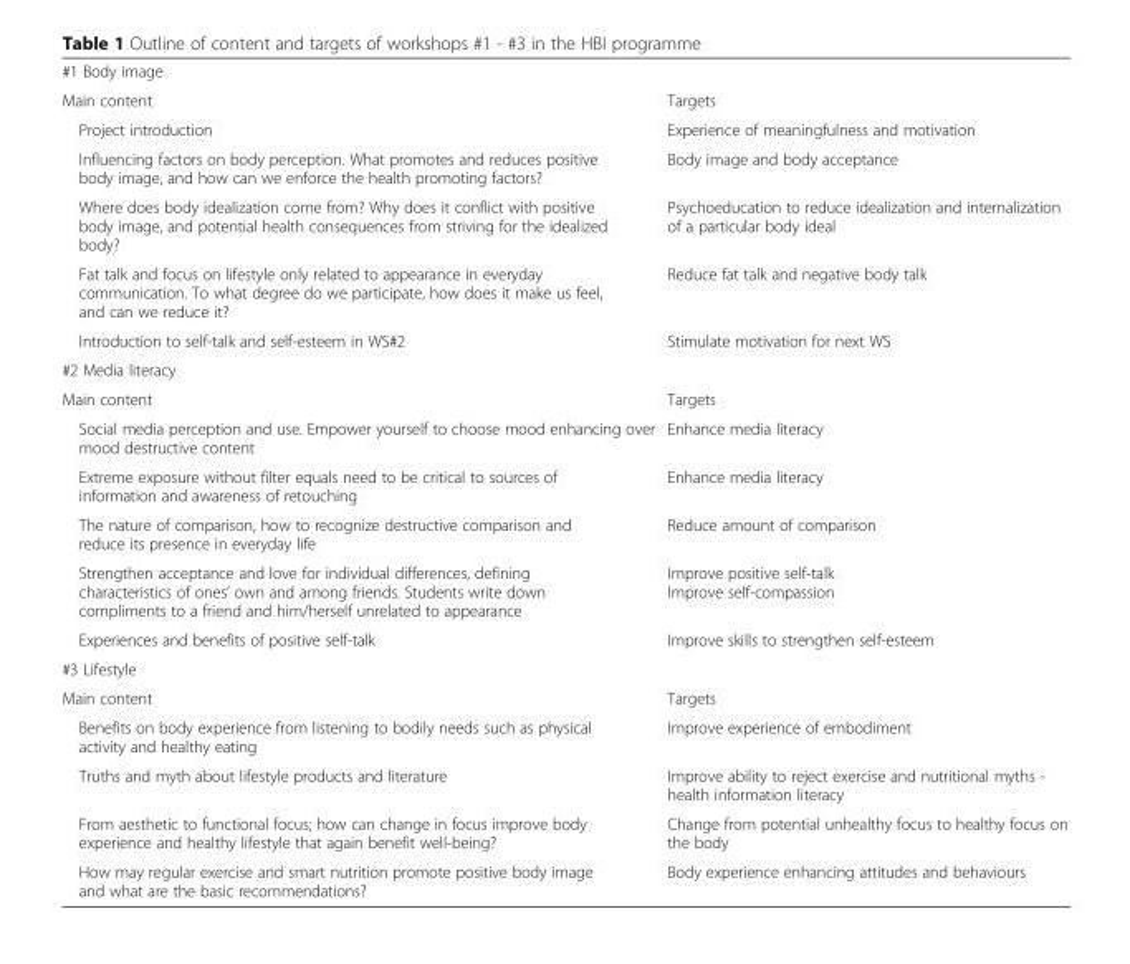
<table><tbody><tr><td colspan="2">#1 Body image</td></tr><tr><td>Main content</td><td>Targets</td></tr><tr><td>Project introduction</td><td>Experience of meaningfulness and motivation</td></tr><tr><td>Influencing factors on body perception. What promotes and reduces positive body image, and how can we enforce the health promoting factors?</td><td>Body image and body acceptance</td></tr><tr><td>Where does body idealization come from? Why does it conflict with positive body image, and potential health consequences from striving for the idealized body?</td><td>Psychoeducation to reduce idealization and internalization of a particular body ideal</td></tr><tr><td>Fat talk and focus on lifestyle only related to appearance in everyday communication. To what degree do we participate, how does it make us feel, and can we reduce it?</td><td>Reduce fat talk and negative body talk</td></tr><tr><td>Introduction to self-talk and self-esteem in WS#2</td><td>Stimulate motivation for next WS</td></tr><tr><td colspan="2">#2 Media literacy</td></tr><tr><td>Main content</td><td>Targets</td></tr><tr><td>Social media perception and use. Empower yourself to choose mood enhancing over mood destructive content</td><td>Enhance media literacy</td></tr><tr><td>Extreme exposure without filter equals need to be critical to sources of information and awareness of retouching</td><td>Enhance media literacy</td></tr><tr><td>The nature of comparison, how to recognize destructive comparison and reduce its presence in everyday life</td><td>Reduce amount of comparison</td></tr><tr><td>Strengthen acceptance and love for individual differences, defining characteristics of ones’ own and among friends. Students write down compliments to a friend and him/herself unrelated to appearance</td><td>Improve positive self-talk Improve self-compassion</td></tr><tr><td>Experiences and benefits of positive self-talk</td><td>Improve skills to strengthen self-esteem</td></tr><tr><td colspan="2">#3 Lifestyle</td></tr><tr><td>Main content</td><td>Targets</td></tr><tr><td>Benefits on body experience from listening to bodily needs such as physical activity and healthy eating</td><td>Improve experience of embodiment</td></tr><tr><td>Truths and myth about lifestyle products and literature</td><td>Improve ability to reject exercise and nutritional myths - health information literacy</td></tr><tr><td>From aesthetic to functional focus; how can change in focus improve body experience and healthy lifestyle that again benefit well-being?</td><td>Change from potential unhealthy focus to healthy focus on the body</td></tr><tr><td>How may regular exercise and smart nutrition promote positive body image and what are the basic recommendations?</td><td>Body experience enhancing attitudes and behaviours</td></tr></tbody></table>